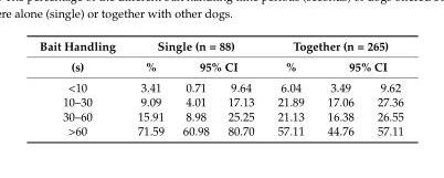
<table><thead><tr><td rowspan="3">Bait Handling (s) &lt;10</td><td colspan="3">Single (n = 88)</td><td colspan="3">Together (n = 265)</td></tr><tr><td rowspan="2">% 3.41</td><td colspan="2">95% CI</td><td rowspan="2">% 6.04</td><td colspan="2">95% CI</td></tr><tr><td>0.71</td><td>9.64</td><td>3.49</td><td>9.62</td></tr></thead><tbody><tr><td>10–30</td><td>9.09</td><td>4.01</td><td>17.13</td><td>21.89</td><td>17.06</td><td>27.36</td></tr><tr><td>30–60</td><td>15.91</td><td>8.98</td><td>25.25</td><td>21.13</td><td>16.38</td><td>26.55</td></tr><tr><td>&gt;60</td><td>71.59</td><td>60.98</td><td>80.70</td><td>57.11</td><td>44.76</td><td>57.11</td></tr></tbody></table>